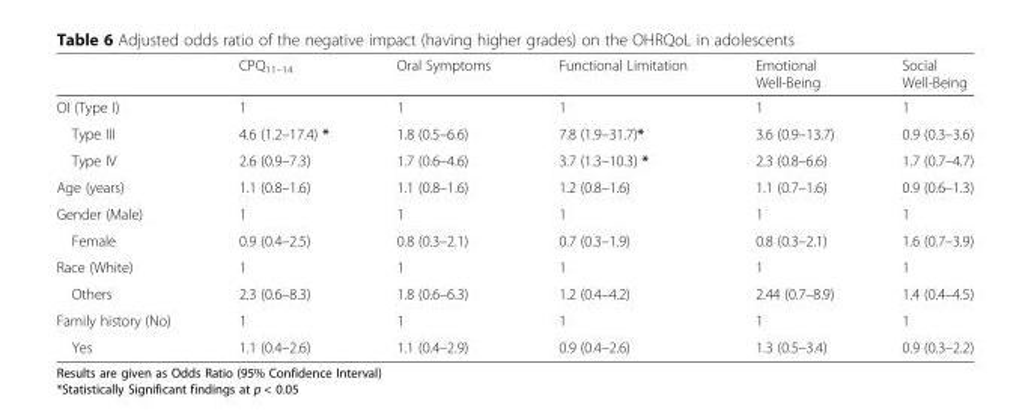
<table><thead><tr><td></td><td>CPQ<sub>11–14</sub></td><td>Oral Symptoms</td><td>Functional Limitation</td><td>Emotional Well-Being</td><td>Social Well-Being</td></tr></thead><tbody><tr><td>OI (Type I)</td><td>1</td><td>1</td><td>1</td><td>1</td><td>1</td></tr><tr><td>Type III</td><td>4.6 (1.2–17.4) *</td><td>1.8 (0.5–6.6)</td><td>7.8 (1.9–31.7)*</td><td>3.6 (0.9–13.7)</td><td>0.9 (0.3–3.6)</td></tr><tr><td>Type IV</td><td>2.6 (0.9–7.3)</td><td>1.7 (0.6–4.6)</td><td>3.7 (1.3–10.3) *</td><td>2.3 (0.8–6.6)</td><td>1.7 (0.7–4.7)</td></tr><tr><td>Age (years)</td><td>1.1 (0.8–1.6)</td><td>1.1 (0.8–1.6)</td><td>1.2 (0.8–1.6)</td><td>1.1 (0.7–1.6)</td><td>0.9 (0.6–1.3)</td></tr><tr><td>Gender (Male)</td><td>1</td><td>1</td><td>1</td><td>1</td><td>1</td></tr><tr><td>Female</td><td>0.9 (0.4–2.5)</td><td>0.8 (0.3–2.1)</td><td>0.7 (0.3–1.9)</td><td>0.8 (0.3–2.1)</td><td>1.6 (0.7–3.9)</td></tr><tr><td>Race (White)</td><td>1</td><td>1</td><td>1</td><td>1</td><td>1</td></tr><tr><td>Others</td><td>2.3 (0.6–8.3)</td><td>1.8 (0.6–6.3)</td><td>1.2 (0.4–4.2)</td><td>2.44 (0.7–8.9)</td><td>1.4 (0.4–4.5)</td></tr><tr><td>Family history (No)</td><td>1</td><td>1</td><td>1</td><td>1</td><td>1</td></tr><tr><td>Yes</td><td>1.1 (0.4–2.6)</td><td>1.1 (0.4–2.9)</td><td>0.9 (0.4–2.6)</td><td>1.3 (0.5–3.4)</td><td>0.9 (0.3–2.2)</td></tr></tbody></table>